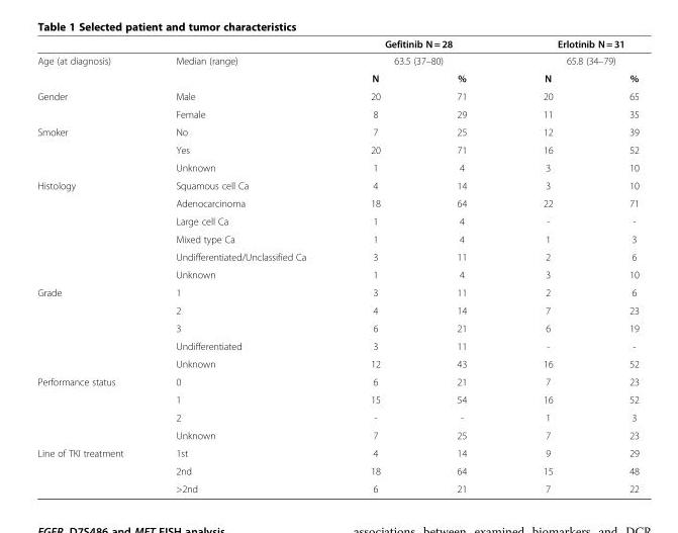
<table><thead><tr><td rowspan="3">Age (at diagnosis)</td><td rowspan="3">Median (range)</td><td rowspan="2" colspan="2">Gefitinib N = 28 63.5 (37–80)</td><td rowspan="2" colspan="2">Erlotinib N = 31 65.8 (34–79)</td></tr><tr></tr><tr><td>N</td><td>%</td><td>N</td><td>%</td></tr></thead><tbody><tr><td rowspan="2">Gender</td><td>Male</td><td>20</td><td>71</td><td>20</td><td>65</td></tr><tr><td>Female</td><td>8</td><td>29</td><td>11</td><td>35</td></tr><tr><td rowspan="3">Smoker</td><td>No</td><td>7</td><td>25</td><td>12</td><td>39</td></tr><tr><td>Yes</td><td>20</td><td>71</td><td>16</td><td>52</td></tr><tr><td>Unknown</td><td>1</td><td>4</td><td>3</td><td>10</td></tr><tr><td rowspan="6">Histology</td><td>Squamous cell Ca</td><td>4</td><td>14</td><td>3</td><td>10</td></tr><tr><td>Adenocarcinoma</td><td>18</td><td>64</td><td>22</td><td>71</td></tr><tr><td>Large cell Ca</td><td>1</td><td>4</td><td>-</td><td>-</td></tr><tr><td>Mixed type Ca</td><td>1</td><td>4</td><td>1</td><td>3</td></tr><tr><td>Undifferentiated/Unclassified Ca</td><td>3</td><td>11</td><td>2</td><td>6</td></tr><tr><td>Unknown</td><td>1</td><td>4</td><td>3</td><td>10</td></tr><tr><td rowspan="5">Grade</td><td>1</td><td>3</td><td>11</td><td>2</td><td>6</td></tr><tr><td>2</td><td>4</td><td>14</td><td>7</td><td>23</td></tr><tr><td>3</td><td>6</td><td>21</td><td>6</td><td>19</td></tr><tr><td>Undifferentiated</td><td>3</td><td>11</td><td>-</td><td>-</td></tr><tr><td>Unknown</td><td>12</td><td>43</td><td>16</td><td>52</td></tr><tr><td rowspan="4">Performance status</td><td>0</td><td>6</td><td>21</td><td>7</td><td>23</td></tr><tr><td>1</td><td>15</td><td>54</td><td>16</td><td>52</td></tr><tr><td>2</td><td>-</td><td>-</td><td>1</td><td>3</td></tr><tr><td>Unknown</td><td>7</td><td>25</td><td>7</td><td>23</td></tr><tr><td rowspan="3">Line of TKI treatment</td><td>1st</td><td>4</td><td>14</td><td>9</td><td>29</td></tr><tr><td>2nd</td><td>18</td><td>64</td><td>15</td><td>48</td></tr><tr><td>&gt;2nd</td><td>6</td><td>21</td><td>7</td><td>22</td></tr></tbody></table>